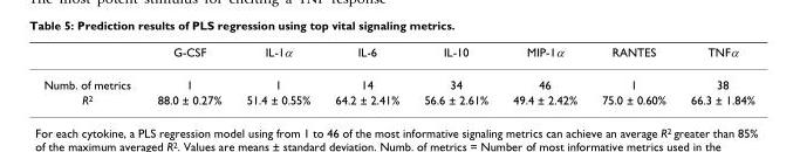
<table><thead><tr><td></td><td>G-CSF</td><td>IL-1α</td><td>IL-6</td><td>IL-10</td><td>MIP-1α</td><td>RANTES</td><td>TNFα</td></tr></thead><tbody><tr><td>Numb. of metrics</td><td>1</td><td>1</td><td>14</td><td>34</td><td>46</td><td>1</td><td>38</td></tr><tr><td>R<sup>2</sup></td><td>88.0 ± 0.27%</td><td>51.4 ± 0.55%</td><td>64.2 ± 2.41%</td><td>56.6 ± 2.61%</td><td>49.4 ± 2.42%</td><td>75.0 ± 0.60%</td><td>66.3 ± 1.84%</td></tr></tbody></table>